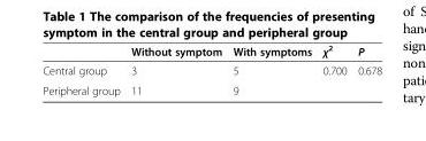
<table><thead><tr><td></td><td>Without symptom</td><td>With symptoms</td><td>χ<sup>2</sup></td><td>P</td></tr></thead><tbody><tr><td>Central group</td><td>3</td><td>5</td><td>0.700</td><td>0.678</td></tr><tr><td>Peripheral group</td><td>11</td><td>9</td><td></td><td></td></tr></tbody></table>